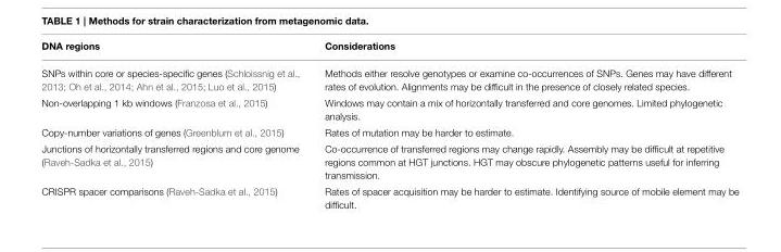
<table><thead><tr><td>DNA regions</td><td>Considerations</td></tr></thead><tbody><tr><td>SNPs within core or species-specific genes (Schloissnig et al., 2013; Oh et al., 2014; Ahn et al., 2015; Luo et al., 2015)</td><td>Methods either resolve genotypes or examine co-occurrences of SNPs. Genes may have different rates of evolution. Alignments may be difficult in the presence of closely related species.</td></tr><tr><td>Non-overlapping 1 kb windows (Franzosa et al., 2015)</td><td>Windows may contain a mix of horizontally transferred and core genomes. Limited phylogenetic analysis.</td></tr><tr><td>Copy-number variations of genes (Greenblum et al., 2015)</td><td>Rates of mutation may be harder to estimate.</td></tr><tr><td>Junctions of horizontally transferred regions and core genome (Raveh-Sadka et al., 2015)</td><td>Co-occurrence of transferred regions may change rapidly. Assembly may be difficult at repetitive regions common at HGT junctions. HGT may obscure phylogenetic patterns useful for inferring transmission.</td></tr><tr><td>CRISPR spacer comparisons (Raveh-Sadka et al., 2015)</td><td>Rates of spacer acquisition may be harder to estimate. Identifying source of mobile element may be difficult.</td></tr></tbody></table>